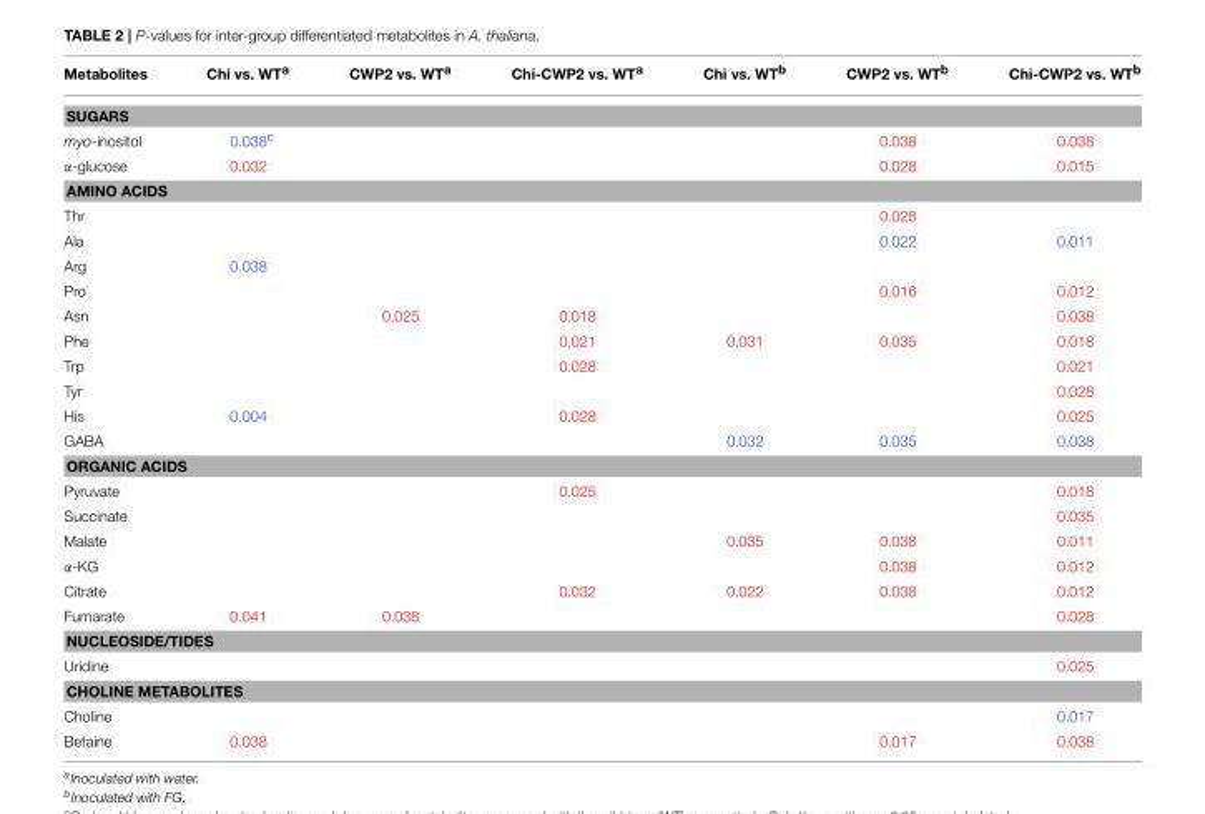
<table><thead><tr><td>Metabolites</td><td>Chi vs. WT<sup>a</sup></td><td>CWP2 vs. WT<sup>a</sup></td><td>Chi-CWP2 vs. WT<sup>a</sup></td><td>Chi vs. WT<sup>b</sup></td><td>CWP2 vs. WT<sup>b</sup></td><td>Chi-CWP2 vs. WT<sup>b</sup></td></tr></thead><tbody><tr><td colspan="7">SUGARS</td></tr><tr><td>myo-inositol</td><td>0.038<sup>c</sup></td><td></td><td></td><td></td><td>0.038</td><td>0.038</td></tr><tr><td>α-glucose</td><td>0.032</td><td></td><td></td><td></td><td>0.028</td><td>0.015</td></tr><tr><td colspan="7">AMINO ACIDS</td></tr><tr><td>Thr</td><td></td><td></td><td></td><td></td><td>0.028</td><td></td></tr><tr><td>Ala</td><td></td><td></td><td></td><td></td><td>0.022</td><td>0.011</td></tr><tr><td>Arg</td><td>0.038</td><td></td><td></td><td></td><td></td><td></td></tr><tr><td>Pro</td><td></td><td></td><td></td><td></td><td>0.016</td><td>0.012</td></tr><tr><td>Asn</td><td></td><td>0.025</td><td>0.018</td><td></td><td></td><td>0.038</td></tr><tr><td>Phe</td><td></td><td></td><td>0.021</td><td>0.031</td><td>0.035</td><td>0.018</td></tr><tr><td>Trp</td><td></td><td></td><td>0.028</td><td></td><td></td><td>0.021</td></tr><tr><td>Tyr</td><td></td><td></td><td></td><td></td><td></td><td>0.028</td></tr><tr><td>His</td><td>0.004</td><td></td><td>0.028</td><td></td><td></td><td>0.025</td></tr><tr><td>GABA</td><td></td><td></td><td></td><td>0.032</td><td>0.035</td><td>0.038</td></tr><tr><td colspan="7">ORGANIC ACIDS</td></tr><tr><td>Pyruvate</td><td></td><td></td><td>0.025</td><td></td><td></td><td>0.018</td></tr><tr><td>Succinate</td><td></td><td></td><td></td><td></td><td></td><td>0.035</td></tr><tr><td>Malate</td><td></td><td></td><td></td><td>0.035</td><td>0.038</td><td>0.011</td></tr><tr><td>α-KG</td><td></td><td></td><td></td><td></td><td>0.038</td><td>0.012</td></tr><tr><td>Citrate</td><td></td><td></td><td>0.032</td><td>0.022</td><td>0.038</td><td>0.012</td></tr><tr><td>Fumarate</td><td>0.041</td><td>0.038</td><td></td><td></td><td></td><td>0.028</td></tr><tr><td colspan="7">NUCLEOSIDE/TIDES</td></tr><tr><td>Uridine</td><td></td><td></td><td></td><td></td><td></td><td>0.025</td></tr><tr><td colspan="7">CHOLINE METABOLITES</td></tr><tr><td>Choline</td><td></td><td></td><td></td><td></td><td></td><td>0.017</td></tr><tr><td>Betaine</td><td>0.038</td><td></td><td></td><td></td><td>0.017</td><td>0.038</td></tr></tbody></table>